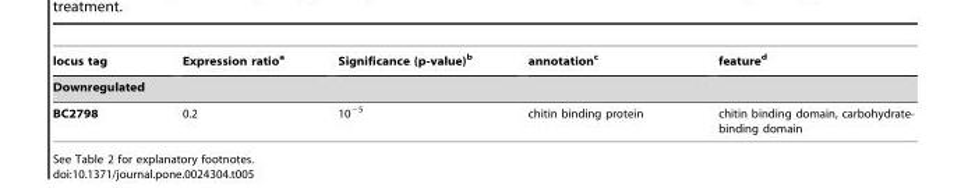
<table><thead><tr><td>locus tag</td><td>Expression ratio<sup>a</sup></td><td>Significance (p-value)<sup>b</sup></td><td>annotation<sup>c</sup></td><td>feature<sup>d</sup></td></tr><tr><td colspan="5">Downregulated</td></tr></thead><tbody><tr><td>BC2798</td><td>0.2</td><td>10<sup>−5</sup></td><td>chitin binding protein</td><td>chitin binding domain, carbohydrate- binding domain</td></tr></tbody></table>